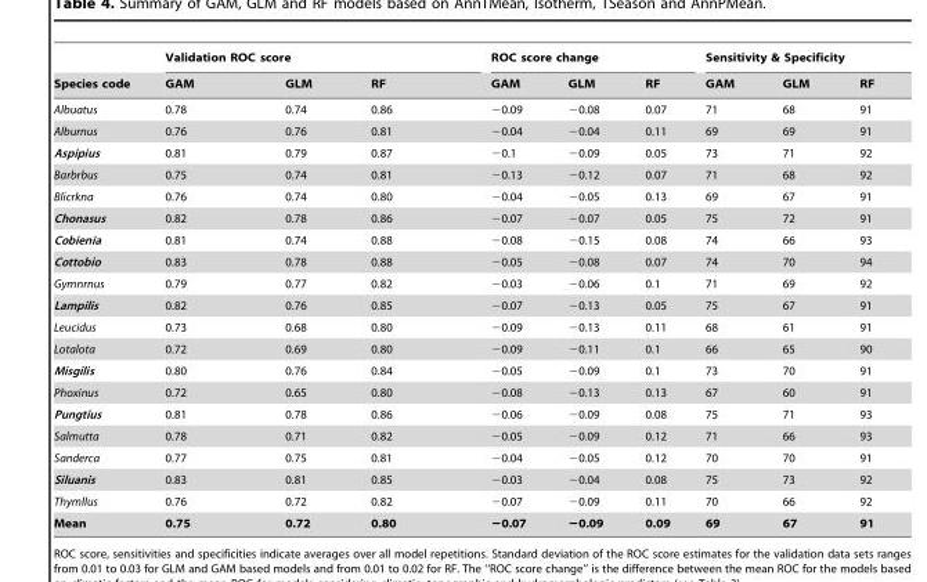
<table><thead><tr><td rowspan="2">Species code</td><td colspan="3">Validation ROC score</td><td colspan="3">ROC score change</td><td colspan="3">Sensitivity &amp; Specificity</td></tr><tr><td>GAM</td><td>GLM</td><td>RF</td><td>GAM</td><td>GLM</td><td>RF</td><td>GAM</td><td>GLM</td><td>RF</td></tr></thead><tbody><tr><td>Albuatus</td><td>0.78</td><td>0.74</td><td>0.86</td><td>−0.09</td><td>−0.08</td><td>0.07</td><td>71</td><td>68</td><td>91</td></tr><tr><td>Alburnus</td><td>0.76</td><td>0.76</td><td>0.81</td><td>−0.04</td><td>−0.04</td><td>0.11</td><td>69</td><td>69</td><td>91</td></tr><tr><td>Aspipius</td><td>0.81</td><td>0.79</td><td>0.87</td><td>−0.1</td><td>−0.09</td><td>0.05</td><td>73</td><td>71</td><td>92</td></tr><tr><td>Barbrbus</td><td>0.75</td><td>0.74</td><td>0.81</td><td>−0.13</td><td>−0.12</td><td>0.07</td><td>71</td><td>68</td><td>92</td></tr><tr><td>Blicrkna</td><td>0.76</td><td>0.74</td><td>0.80</td><td>−0.04</td><td>−0.05</td><td>0.13</td><td>69</td><td>67</td><td>91</td></tr><tr><td>Chonasus</td><td>0.82</td><td>0.78</td><td>0.86</td><td>−0.07</td><td>−0.07</td><td>0.05</td><td>75</td><td>72</td><td>91</td></tr><tr><td>Cobienia</td><td>0.81</td><td>0.74</td><td>0.88</td><td>−0.08</td><td>−0.15</td><td>0.08</td><td>74</td><td>66</td><td>93</td></tr><tr><td>Cottobio</td><td>0.83</td><td>0.78</td><td>0.88</td><td>−0.05</td><td>−0.08</td><td>0.07</td><td>74</td><td>70</td><td>94</td></tr><tr><td>Gymnrnus</td><td>0.79</td><td>0.77</td><td>0.82</td><td>−0.03</td><td>−0.06</td><td>0.1</td><td>71</td><td>69</td><td>92</td></tr><tr><td>Lampilis</td><td>0.82</td><td>0.76</td><td>0.85</td><td>−0.07</td><td>−0.13</td><td>0.05</td><td>75</td><td>67</td><td>91</td></tr><tr><td>Leucidus</td><td>0.73</td><td>0.68</td><td>0.80</td><td>−0.09</td><td>−0.13</td><td>0.11</td><td>68</td><td>61</td><td>91</td></tr><tr><td>Lotalota</td><td>0.72</td><td>0.69</td><td>0.80</td><td>−0.09</td><td>−0.11</td><td>0.1</td><td>66</td><td>65</td><td>90</td></tr><tr><td>Misgilis</td><td>0.80</td><td>0.76</td><td>0.84</td><td>−0.05</td><td>−0.09</td><td>0.1</td><td>73</td><td>70</td><td>91</td></tr><tr><td>Phoxinus</td><td>0.72</td><td>0.65</td><td>0.80</td><td>−0.08</td><td>−0.13</td><td>0.13</td><td>67</td><td>60</td><td>91</td></tr><tr><td>Pungtius</td><td>0.81</td><td>0.78</td><td>0.86</td><td>−0.06</td><td>−0.09</td><td>0.08</td><td>75</td><td>71</td><td>93</td></tr><tr><td>Salmutta</td><td>0.78</td><td>0.71</td><td>0.82</td><td>−0.05</td><td>−0.09</td><td>0.12</td><td>71</td><td>66</td><td>93</td></tr><tr><td>Sanderca</td><td>0.77</td><td>0.75</td><td>0.81</td><td>−0.04</td><td>−0.05</td><td>0.12</td><td>70</td><td>70</td><td>91</td></tr><tr><td>Siluanis</td><td>0.83</td><td>0.81</td><td>0.85</td><td>−0.03</td><td>−0.04</td><td>0.08</td><td>75</td><td>73</td><td>92</td></tr><tr><td>Thymllus</td><td>0.76</td><td>0.72</td><td>0.82</td><td>−0.07</td><td>−0.09</td><td>0.11</td><td>70</td><td>66</td><td>92</td></tr><tr><td>Mean</td><td>0.75</td><td>0.72</td><td>0.80</td><td>−0.07</td><td>−0.09</td><td>0.09</td><td>69</td><td>67</td><td>91</td></tr></tbody></table>